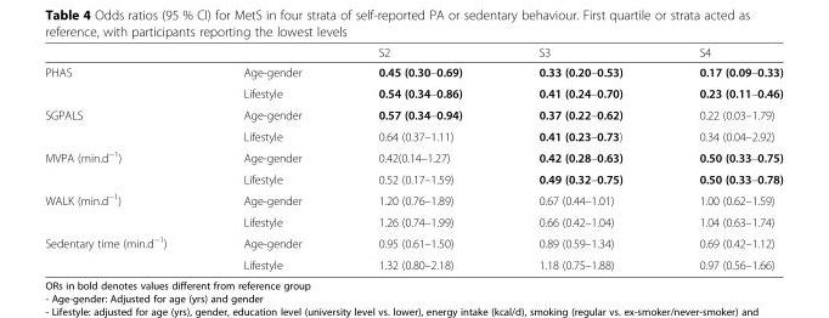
<table><thead><tr><td></td><td></td><td>S2</td><td>S3</td><td>S4</td></tr></thead><tbody><tr><td rowspan="2">PHAS</td><td>Age-gender</td><td>0.45 (0.30–0.69)</td><td>0.33 (0.20–0.53)</td><td>0.17 (0.09–0.33)</td></tr><tr><td>Lifestyle</td><td>0.54 (0.34–0.86)</td><td>0.41 (0.24–0.70)</td><td>0.23 (0.11–0.46)</td></tr><tr><td rowspan="2">SGPALS</td><td>Age-gender</td><td>0.57 (0.34–0.94)</td><td>0.37 (0.22–0.62)</td><td>0.22 (0.03–1.79)</td></tr><tr><td>Lifestyle</td><td>0.64 (0.37–1.11)</td><td>0.41 (0.23–0.73)</td><td>0.34 (0.04–2.92)</td></tr><tr><td rowspan="2">MVPA (min.d<sup>−1</sup>)</td><td>Age-gender</td><td>0.42(0.14–1.27)</td><td>0.42 (0.28–0.63)</td><td>0.50 (0.33–0.75)</td></tr><tr><td>Lifestyle</td><td>0.52 (0.17–1.59)</td><td>0.49 (0.32–0.75)</td><td>0.50 (0.33–0.78)</td></tr><tr><td rowspan="2">WALK (min.d<sup>−1</sup>)</td><td>Age-gender</td><td>1.20 (0.76–1.89)</td><td>0.67 (0.44–1.01)</td><td>1.00 (0.62–1.59)</td></tr><tr><td>Lifestyle</td><td>1.26 (0.74–1.99)</td><td>0.66 (0.42–1.04)</td><td>1.04 (0.63–1.74)</td></tr><tr><td rowspan="2">Sedentary time (min.d<sup>−1</sup>)</td><td>Age-gender</td><td>0.95 (0.61–1.50)</td><td>0.89 (0.59–1.34)</td><td>0.69 (0.42–1.12)</td></tr><tr><td>Lifestyle</td><td>1.32 (0.80–2.18)</td><td>1.18 (0.75–1.88)</td><td>0.97 (0.56–1.66)</td></tr></tbody></table>